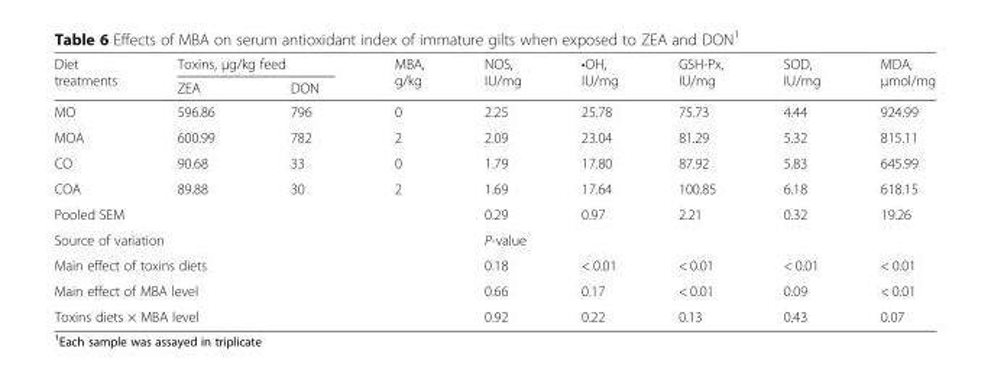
<table><thead><tr><td rowspan="2">Diet treatments</td><td colspan="2">Toxins, μg/kg feed</td><td rowspan="2">MBA, g/kg</td><td rowspan="2">NOS, IU/mg</td><td rowspan="2">•OH, IU/mg</td><td rowspan="2">GSH-Px, IU/mg</td><td rowspan="2">SOD, IU/mg</td><td rowspan="2">MDA, μmol/mg</td></tr><tr><td>ZEA</td><td>DON</td></tr></thead><tbody><tr><td>MO</td><td>596.86</td><td>796</td><td>0</td><td>2.25</td><td>25.78</td><td>75.73</td><td>4.44</td><td>924.99</td></tr><tr><td>MOA</td><td>600.99</td><td>782</td><td>2</td><td>2.09</td><td>23.04</td><td>81.29</td><td>5.32</td><td>815.11</td></tr><tr><td>CO</td><td>90.68</td><td>33</td><td>0</td><td>1.79</td><td>17.80</td><td>87.92</td><td>5.83</td><td>645.99</td></tr><tr><td>COA</td><td>89.88</td><td>30</td><td>2</td><td>1.69</td><td>17.64</td><td>100.85</td><td>6.18</td><td>618.15</td></tr><tr><td colspan="4">Pooled SEM</td><td>0.29</td><td>0.97</td><td>2.21</td><td>0.32</td><td>19.26</td></tr><tr><td colspan="4">Source of variation</td><td colspan="5">P-value</td></tr><tr><td colspan="4">Main effect of toxins diets</td><td>0.18</td><td>&lt; 0.01</td><td>&lt; 0.01</td><td>&lt; 0.01</td><td>&lt; 0.01</td></tr><tr><td colspan="4">Main effect of MBA level</td><td>0.66</td><td>0.17</td><td>&lt; 0.01</td><td>0.09</td><td>&lt; 0.01</td></tr><tr><td colspan="4">Toxins diets × MBA level</td><td>0.92</td><td>0.22</td><td>0.13</td><td>0.43</td><td>0.07</td></tr></tbody></table>